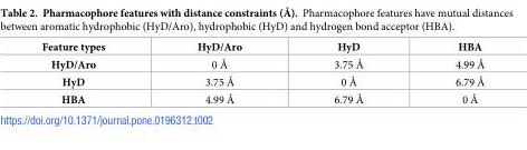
<table><tbody><tr><td>Feature types</td><td>HyD/Aro</td><td>HyD</td><td>HBA</td></tr><tr><td>HyD/Aro</td><td>0 Å</td><td>3.75 Å</td><td>4.99 Å</td></tr><tr><td>HyD</td><td>3.75 Å</td><td>0 Å</td><td>6.79 Å</td></tr><tr><td>HBA</td><td>4.99 Å</td><td>6.79 Å</td><td>0 Å</td></tr></tbody></table>